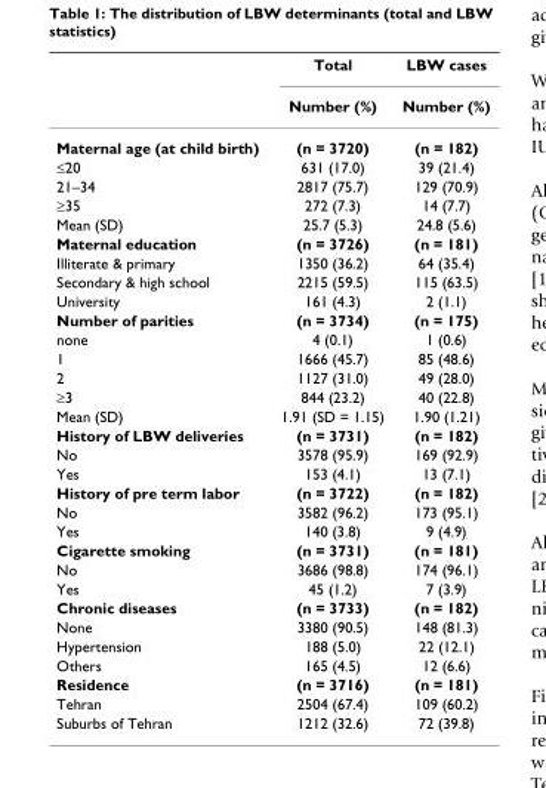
<table><thead><tr><td rowspan="2"></td><td rowspan="2">Total Number (%)</td><td rowspan="2">LBW cases Number (%)</td></tr><tr></tr></thead><tbody><tr><td>Maternal age (at child birth)</td><td>(n = 3720)</td><td>(n = 182)</td></tr><tr><td>≤20</td><td>631 (17.0)</td><td>39 (21.4)</td></tr><tr><td>21–34</td><td>2817 (75.7)</td><td>129 (70.9)</td></tr><tr><td>≥35</td><td>272 (7.3)</td><td>14 (7.7)</td></tr><tr><td>Mean (SD)</td><td>25.7 (5.3)</td><td>24.8 (5.6)</td></tr><tr><td>Maternal education</td><td>(n = 3726)</td><td>(n = 181)</td></tr><tr><td>Illiterate &amp; primary</td><td>1350 (36.2)</td><td>64 (35.4)</td></tr><tr><td>Secondary &amp; high school</td><td>2215 (59.5)</td><td>115 (63.5)</td></tr><tr><td>University</td><td>161 (4.3)</td><td>2 (1.1)</td></tr><tr><td>Number of parities</td><td>(n = 3734)</td><td>(n = 175)</td></tr><tr><td>none</td><td>4 (0.1)</td><td>1 (0.6)</td></tr><tr><td>1</td><td>1666 (45.7)</td><td>85 (48.6)</td></tr><tr><td>2</td><td>1127 (31.0)</td><td>49 (28.0)</td></tr><tr><td>≥3</td><td>844 (23.2)</td><td>40 (22.8)</td></tr><tr><td>Mean (SD)</td><td>1.91 (SD = 1.15)</td><td>1.90 (1.21)</td></tr><tr><td>History of LBW deliveries</td><td>(n = 3731)</td><td>(n = 182)</td></tr><tr><td>No</td><td>3578 (95.9)</td><td>169 (92.9)</td></tr><tr><td>Yes</td><td>153 (4.1)</td><td>13 (7.1)</td></tr><tr><td>History of pre term labor</td><td>(n = 3722)</td><td>(n = 182)</td></tr><tr><td>No</td><td>3582 (96.2)</td><td>173 (95.1)</td></tr><tr><td>Yes</td><td>140 (3.8)</td><td>9 (4.9)</td></tr><tr><td>Cigarette smoking</td><td>(n = 3731)</td><td>(n = 181)</td></tr><tr><td>No</td><td>3686 (98.8)</td><td>174 (96.1)</td></tr><tr><td>Yes</td><td>45 (1.2)</td><td>7 (3.9)</td></tr><tr><td>Chronic diseases</td><td>(n = 3733)</td><td>(n = 182)</td></tr><tr><td>None</td><td>3380 (90.5)</td><td>148 (81.3)</td></tr><tr><td>Hypertension</td><td>188 (5.0)</td><td>22 (12.1)</td></tr><tr><td>Others</td><td>165 (4.5)</td><td>12 (6.6)</td></tr><tr><td>Residence</td><td>(n = 3716)</td><td>(n = 181)</td></tr><tr><td>Tehran</td><td>2504 (67.4)</td><td>109 (60.2)</td></tr><tr><td>Suburbs of Tehran</td><td>1212 (32.6)</td><td>72 (39.8)</td></tr></tbody></table>